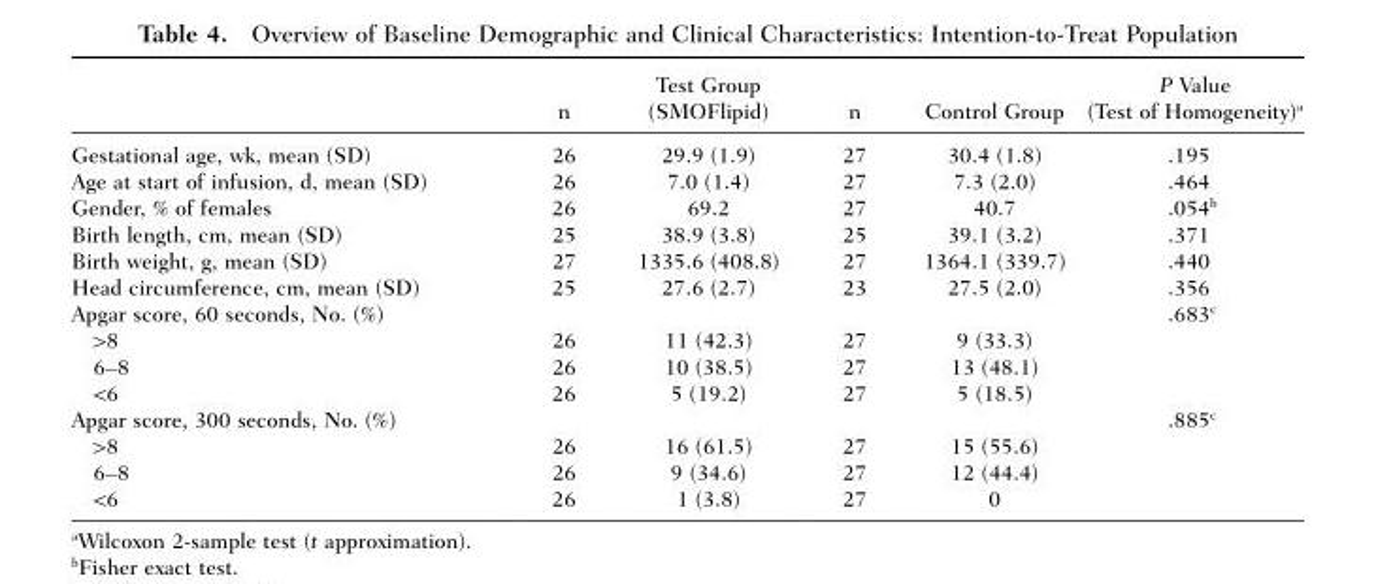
<table><thead><tr><td></td><td>n</td><td>Test Group (SMOFlipid)</td><td>n</td><td>Control Group</td><td>P Value (Test of Homogeneity)<sup>a</sup></td></tr></thead><tbody><tr><td>Gestational age, wk, mean (SD)</td><td>26</td><td>29.9 (1.9)</td><td>27</td><td>30.4 (1.8)</td><td>.195</td></tr><tr><td>Age at start of infusion, d, mean (SD)</td><td>26</td><td>7.0 (1.4)</td><td>27</td><td>7.3 (2.0)</td><td>.464</td></tr><tr><td>Gender, % of females</td><td>26</td><td>69.2</td><td>27</td><td>40.7</td><td>.054<sup>b</sup></td></tr><tr><td>Birth length, cm, mean (SD)</td><td>25</td><td>38.9 (3.8)</td><td>25</td><td>39.1 (3.2)</td><td>.371</td></tr><tr><td>Birth weight, g, mean (SD)</td><td>27</td><td>1335.6 (408.8)</td><td>27</td><td>1364.1 (339.7)</td><td>.440</td></tr><tr><td>Head circumference, cm, mean (SD)</td><td>25</td><td>27.6 (2.7)</td><td>23</td><td>27.5 (2.0)</td><td>.356</td></tr><tr><td>Apgar score, 60 seconds, No. (%)</td><td></td><td></td><td></td><td></td><td>.683<sup>c</sup></td></tr><tr><td>&gt;8</td><td>26</td><td>11 (42.3)</td><td>27</td><td>9 (33.3)</td><td></td></tr><tr><td>6–8</td><td>26</td><td>10 (38.5)</td><td>27</td><td>13 (48.1)</td><td></td></tr><tr><td>&lt;6</td><td>26</td><td>5 (19.2)</td><td>27</td><td>5 (18.5)</td><td></td></tr><tr><td>Apgar score, 300 seconds, No. (%)</td><td></td><td></td><td></td><td></td><td>.885<sup>c</sup></td></tr><tr><td>&gt;8</td><td>26</td><td>16 (61.5)</td><td>27</td><td>15 (55.6)</td><td></td></tr><tr><td>6–8</td><td>26</td><td>9 (34.6)</td><td>27</td><td>12 (44.4)</td><td></td></tr><tr><td>&lt;6</td><td>26</td><td>1 (3.8)</td><td>27</td><td>0</td><td></td></tr></tbody></table>